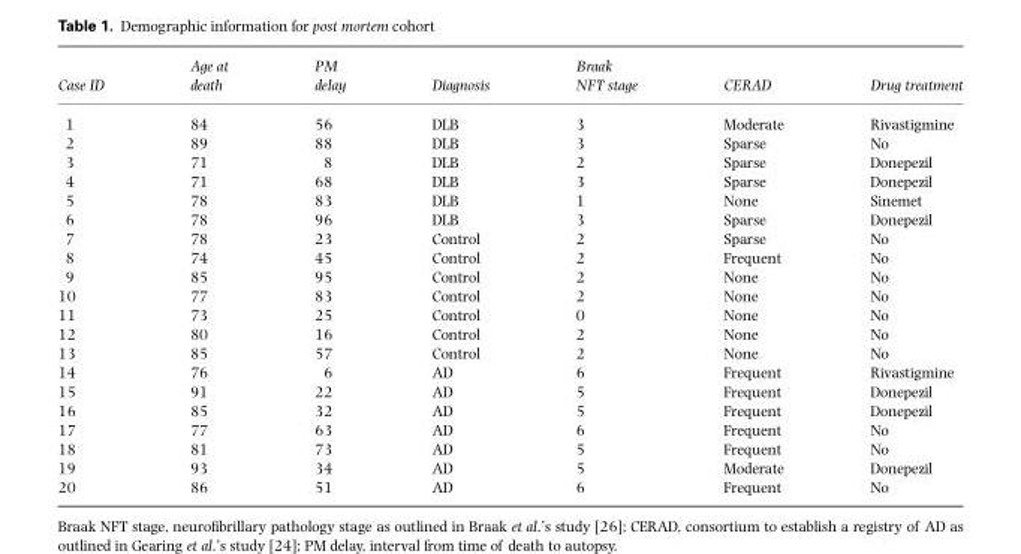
<table><thead><tr><td>Case ID</td><td>Age at death</td><td>PM delay</td><td>Diagnosis</td><td>Braak NFT stage</td><td>CERAD</td><td>Drug treatment</td></tr></thead><tbody><tr><td>1</td><td>84</td><td>56</td><td>DLB</td><td>3</td><td>Moderate</td><td>Rivastigmine</td></tr><tr><td>2</td><td>89</td><td>88</td><td>DLB</td><td>3</td><td>Sparse</td><td>No</td></tr><tr><td>3</td><td>71</td><td>8</td><td>DLB</td><td>2</td><td>Sparse</td><td>Donepezil</td></tr><tr><td>4</td><td>71</td><td>68</td><td>DLB</td><td>3</td><td>Sparse</td><td>Donepezil</td></tr><tr><td>5</td><td>78</td><td>83</td><td>DLB</td><td>1</td><td>None</td><td>Sinemet</td></tr><tr><td>6</td><td>78</td><td>96</td><td>DLB</td><td>3</td><td>Sparse</td><td>Donepezil</td></tr><tr><td>7</td><td>78</td><td>23</td><td>Control</td><td>2</td><td>Sparse</td><td>No</td></tr><tr><td>8</td><td>74</td><td>45</td><td>Control</td><td>2</td><td>Frequent</td><td>No</td></tr><tr><td>9</td><td>85</td><td>95</td><td>Control</td><td>2</td><td>None</td><td>No</td></tr><tr><td>10</td><td>77</td><td>83</td><td>Control</td><td>2</td><td>None</td><td>No</td></tr><tr><td>11</td><td>73</td><td>25</td><td>Control</td><td>0</td><td>None</td><td>No</td></tr><tr><td>12</td><td>80</td><td>16</td><td>Control</td><td>2</td><td>None</td><td>No</td></tr><tr><td>13</td><td>85</td><td>57</td><td>Control</td><td>2</td><td>None</td><td>No</td></tr><tr><td>14</td><td>76</td><td>6</td><td>AD</td><td>6</td><td>Frequent</td><td>Rivastigmine</td></tr><tr><td>15</td><td>91</td><td>22</td><td>AD</td><td>5</td><td>Frequent</td><td>Donepezil</td></tr><tr><td>16</td><td>85</td><td>32</td><td>AD</td><td>5</td><td>Frequent</td><td>Donepezil</td></tr><tr><td>17</td><td>77</td><td>63</td><td>AD</td><td>6</td><td>Frequent</td><td>No</td></tr><tr><td>18</td><td>81</td><td>73</td><td>AD</td><td>5</td><td>Frequent</td><td>No</td></tr><tr><td>19</td><td>93</td><td>34</td><td>AD</td><td>5</td><td>Moderate</td><td>Donepezil</td></tr><tr><td>20</td><td>86</td><td>51</td><td>AD</td><td>6</td><td>Frequent</td><td>No</td></tr></tbody></table>